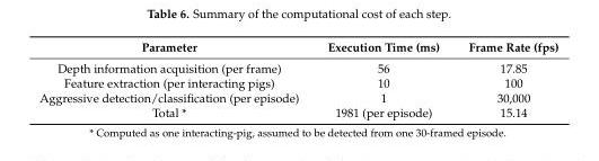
<table><thead><tr><td>Parameter</td><td>Execution Time (ms)</td><td>Frame Rate (fps)</td></tr></thead><tbody><tr><td>Depth information acquisition (per frame)</td><td>56</td><td>17.85</td></tr><tr><td>Feature extraction (per interacting pigs)</td><td>10</td><td>100</td></tr><tr><td>Aggressive detection/classification (per episode)</td><td>1</td><td>30,000</td></tr><tr><td>Total *</td><td>1981 (per episode)</td><td>15.14</td></tr></tbody></table>